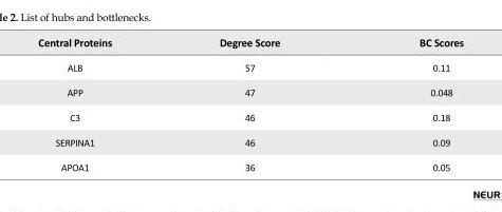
<table><thead><tr><td>Central Proteins</td><td>Degree Score</td><td>BC Scores</td></tr></thead><tbody><tr><td>ALB</td><td>57</td><td>0.11</td></tr><tr><td>APP</td><td>47</td><td>0.048</td></tr><tr><td>C3</td><td>46</td><td>0.18</td></tr><tr><td>SERPINA1</td><td>46</td><td>0.09</td></tr><tr><td>APOA1</td><td>36</td><td>0.05</td></tr></tbody></table>